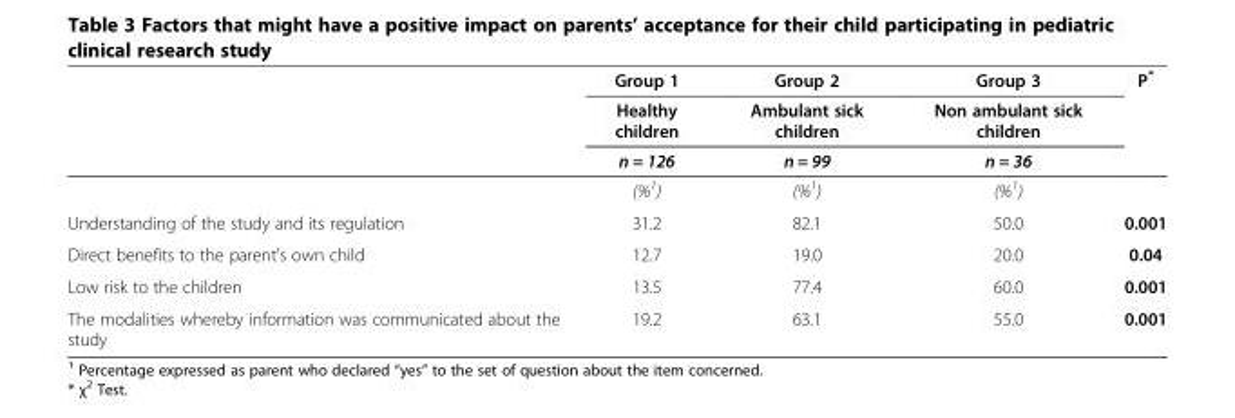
<table><thead><tr><td rowspan="3"></td><td rowspan="3">Group 1 Healthy children n = 126</td><td rowspan="3">Group 2 Ambulant sick children n = 99</td><td rowspan="3">Group 3 Non ambulant sick children n = 36</td><td rowspan="3">P*</td></tr><tr></tr><tr></tr></thead><tbody><tr><td></td><td>(%<sup>1</sup>)</td><td>(%<sup>1</sup>)</td><td>(%<sup>1</sup>)</td><td></td></tr><tr><td>Understanding of the study and its regulation</td><td>31.2</td><td>82.1</td><td>50.0</td><td>0.001</td></tr><tr><td>Direct benefits to the parent’s own child</td><td>12.7</td><td>19.0</td><td>20.0</td><td>0.04</td></tr><tr><td>Low risk to the children</td><td>13.5</td><td>77.4</td><td>60.0</td><td>0.001</td></tr><tr><td>The modalities whereby information was communicated about the study</td><td>19.2</td><td>63.1</td><td>55.0</td><td>0.001</td></tr></tbody></table>